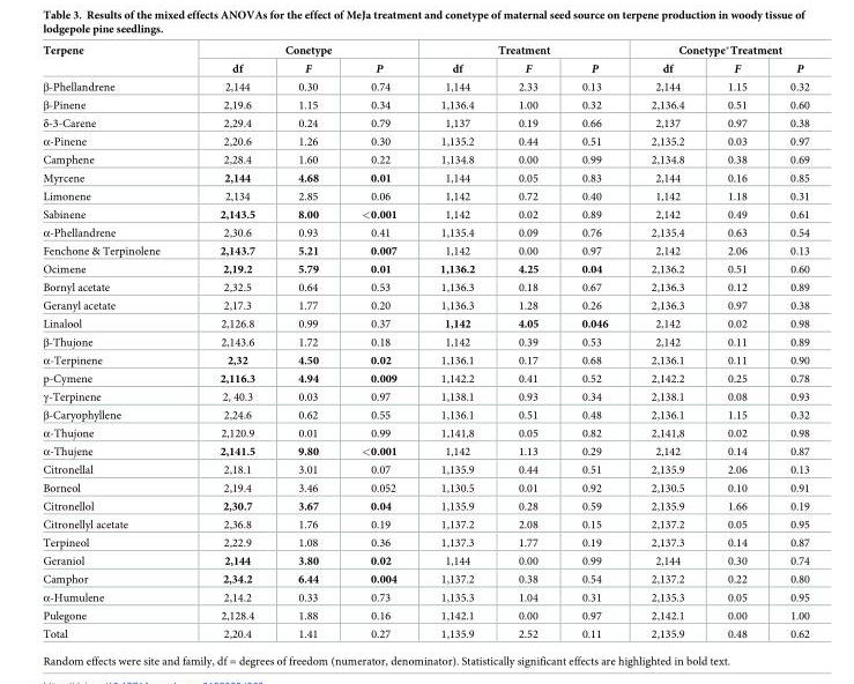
<table><thead><tr><td rowspan="2">Terpene</td><td colspan="3">Conetype</td><td colspan="3">Treatment</td><td colspan="3">Conetype*Treatment</td></tr><tr><td>df</td><td>F</td><td>P</td><td>df</td><td>F</td><td>P</td><td>df</td><td>F</td><td>P</td></tr></thead><tbody><tr><td>β-Phellandrene</td><td>2,144</td><td>0.30</td><td>0.74</td><td>1,144</td><td>2.33</td><td>0.13</td><td>2,144</td><td>1.15</td><td>0.32</td></tr><tr><td>β-Pinene</td><td>2,19.6</td><td>1.15</td><td>0.34</td><td>1,136.4</td><td>1.00</td><td>0.32</td><td>2,136.4</td><td>0.51</td><td>0.60</td></tr><tr><td>δ-3-Carene</td><td>2,29.4</td><td>0.24</td><td>0.79</td><td>1,137</td><td>0.19</td><td>0.66</td><td>2,137</td><td>0.97</td><td>0.38</td></tr><tr><td>α-Pinene</td><td>2,20.6</td><td>1.26</td><td>0.30</td><td>1,135.2</td><td>0.44</td><td>0.51</td><td>2,135.2</td><td>0.03</td><td>0.97</td></tr><tr><td>Camphene</td><td>2,28.4</td><td>1.60</td><td>0.22</td><td>1,134.8</td><td>0.00</td><td>0.99</td><td>2,134.8</td><td>0.38</td><td>0.69</td></tr><tr><td>Myrcene</td><td>2,144</td><td>4.68</td><td>0.01</td><td>1,144</td><td>0.05</td><td>0.83</td><td>2,144</td><td>0.16</td><td>0.85</td></tr><tr><td>Limonene</td><td>2,134</td><td>2.85</td><td>0.06</td><td>1,142</td><td>0.72</td><td>0.40</td><td>1,142</td><td>1.18</td><td>0.31</td></tr><tr><td>Sabinene</td><td>2,143.5</td><td>8.00</td><td>&lt;0.001</td><td>1,142</td><td>0.02</td><td>0.89</td><td>2,142</td><td>0.49</td><td>0.61</td></tr><tr><td>α-Phellandrene</td><td>2,30.6</td><td>0.93</td><td>0.41</td><td>1,135.4</td><td>0.09</td><td>0.76</td><td>2,135.4</td><td>0.63</td><td>0.54</td></tr><tr><td>Fenchone &amp; Terpinolene</td><td>2,143.7</td><td>5.21</td><td>0.007</td><td>1,142</td><td>0.00</td><td>0.97</td><td>2,142</td><td>2.06</td><td>0.13</td></tr><tr><td>Ocimene</td><td>2,19.2</td><td>5.79</td><td>0.01</td><td>1,136.2</td><td>4.25</td><td>0.04</td><td>2,136.2</td><td>0.51</td><td>0.60</td></tr><tr><td>Bornyl acetate</td><td>2,32.5</td><td>0.64</td><td>0.53</td><td>1,136.3</td><td>0.18</td><td>0.67</td><td>2,136.3</td><td>0.12</td><td>0.89</td></tr><tr><td>Geranyl acetate</td><td>2,17.3</td><td>1.77</td><td>0.20</td><td>1,136.3</td><td>1.28</td><td>0.26</td><td>2,136.3</td><td>0.97</td><td>0.38</td></tr><tr><td>Linalool</td><td>2,126.8</td><td>0.99</td><td>0.37</td><td>1,142</td><td>4.05</td><td>0.046</td><td>2,142</td><td>0.02</td><td>0.98</td></tr><tr><td>β-Thujone</td><td>2,143.6</td><td>1.72</td><td>0.18</td><td>1,142</td><td>0.39</td><td>0.53</td><td>2,142</td><td>0.11</td><td>0.89</td></tr><tr><td>α-Terpinene</td><td>2,32</td><td>4.50</td><td>0.02</td><td>1,136.1</td><td>0.17</td><td>0.68</td><td>2,136.1</td><td>0.11</td><td>0.90</td></tr><tr><td>p-Cymene</td><td>2,116.3</td><td>4.94</td><td>0.009</td><td>1,142.2</td><td>0.41</td><td>0.52</td><td>2,142.2</td><td>0.25</td><td>0.78</td></tr><tr><td>γ-Terpinene</td><td>2, 40.3</td><td>0.03</td><td>0.97</td><td>1,138.1</td><td>0.93</td><td>0.34</td><td>2,138.1</td><td>0.08</td><td>0.93</td></tr><tr><td>β-Caryophyllene</td><td>2,24.6</td><td>0.62</td><td>0.55</td><td>1,136.1</td><td>0.51</td><td>0.48</td><td>2,136.1</td><td>1.15</td><td>0.32</td></tr><tr><td>α-Thujone</td><td>2,120.9</td><td>0.01</td><td>0.99</td><td>1,141,8</td><td>0.05</td><td>0.82</td><td>2,141,8</td><td>0.02</td><td>0.98</td></tr><tr><td>α-Thujene</td><td>2,141.5</td><td>9.80</td><td>&lt;0.001</td><td>1,142</td><td>1.13</td><td>0.29</td><td>2,142</td><td>0.14</td><td>0.87</td></tr><tr><td>Citronellal</td><td>2,18.1</td><td>3.01</td><td>0.07</td><td>1,135.9</td><td>0.44</td><td>0.51</td><td>2,135.9</td><td>2.06</td><td>0.13</td></tr><tr><td>Borneol</td><td>2,19.4</td><td>3.46</td><td>0.052</td><td>1,130.5</td><td>0.01</td><td>0.92</td><td>2,130.5</td><td>0.10</td><td>0.91</td></tr><tr><td>Citronellol</td><td>2,30.7</td><td>3.67</td><td>0.04</td><td>1,135.9</td><td>0.28</td><td>0.59</td><td>2,135.9</td><td>1.66</td><td>0.19</td></tr><tr><td>Citronellyl acetate</td><td>2,36.8</td><td>1.76</td><td>0.19</td><td>1,137.2</td><td>2.08</td><td>0.15</td><td>2,137.2</td><td>0.05</td><td>0.95</td></tr><tr><td>Terpineol</td><td>2,22.9</td><td>1.08</td><td>0.36</td><td>1,137.3</td><td>1.77</td><td>0.19</td><td>2,137.3</td><td>0.14</td><td>0.87</td></tr><tr><td>Geraniol</td><td>2,144</td><td>3.80</td><td>0.02</td><td>1,144</td><td>0.00</td><td>0.99</td><td>2,144</td><td>0.30</td><td>0.74</td></tr><tr><td>Camphor</td><td>2,34.2</td><td>6.44</td><td>0.004</td><td>1,137.2</td><td>0.38</td><td>0.54</td><td>2,137.2</td><td>0.22</td><td>0.80</td></tr><tr><td>α-Humulene</td><td>2,14.2</td><td>0.33</td><td>0.73</td><td>1,135.3</td><td>1.04</td><td>0.31</td><td>2,135.3</td><td>0.05</td><td>0.95</td></tr><tr><td>Pulegone</td><td>2,128.4</td><td>1.88</td><td>0.16</td><td>1,142.1</td><td>0.00</td><td>0.97</td><td>2,142.1</td><td>0.00</td><td>1.00</td></tr><tr><td>Total</td><td>2,20.4</td><td>1.41</td><td>0.27</td><td>1,135.9</td><td>2.52</td><td>0.11</td><td>2,135.9</td><td>0.48</td><td>0.62</td></tr></tbody></table>